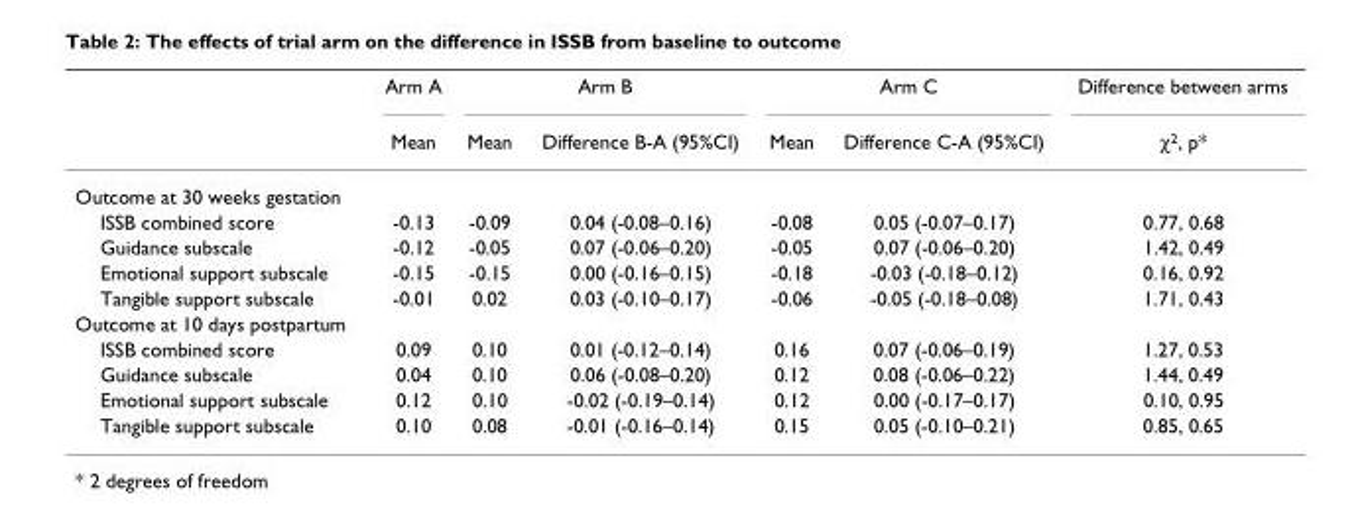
<table><thead><tr><td rowspan="2"></td><td rowspan="2">Arm A Mean</td><td colspan="2">Arm B</td><td colspan="2">Arm C</td><td rowspan="2">Difference between arms χ<sup>2</sup>, p*</td></tr><tr><td>Mean</td><td>Difference B-A (95%CI)</td><td>Mean</td><td>Difference C-A (95%CI)</td></tr></thead><tbody><tr><td colspan="7">Outcome at 30 weeks gestation</td></tr><tr><td>ISSB combined score</td><td>-0.13</td><td>-0.09</td><td>0.04 (-0.08–0.16)</td><td>-0.08</td><td>0.05 (-0.07–0.17)</td><td>0.77, 0.68</td></tr><tr><td>Guidance subscale</td><td>-0.12</td><td>-0.05</td><td>0.07 (-0.06–0.20)</td><td>-0.05</td><td>0.07 (-0.06–0.20)</td><td>1.42, 0.49</td></tr><tr><td>Emotional support subscale</td><td>-0.15</td><td>-0.15</td><td>0.00 (-0.16–0.15)</td><td>-0.18</td><td>-0.03 (-0.18–0.12)</td><td>0.16, 0.92</td></tr><tr><td>Tangible support subscale</td><td>-0.01</td><td>0.02</td><td>0.03 (-0.10–0.17)</td><td>-0.06</td><td>-0.05 (-0.18–0.08)</td><td>1.71, 0.43</td></tr><tr><td colspan="7">Outcome at 10 days postpartum</td></tr><tr><td>ISSB combined score</td><td>0.09</td><td>0.10</td><td>0.01 (-0.12–0.14)</td><td>0.16</td><td>0.07 (-0.06–0.19)</td><td>1.27, 0.53</td></tr><tr><td>Guidance subscale</td><td>0.04</td><td>0.10</td><td>0.06 (-0.08–0.20)</td><td>0.12</td><td>0.08 (-0.06–0.22)</td><td>1.44, 0.49</td></tr><tr><td>Emotional support subscale</td><td>0.12</td><td>0.10</td><td>-0.02 (-0.19–0.14)</td><td>0.12</td><td>0.00 (-0.17–0.17)</td><td>0.10, 0.95</td></tr><tr><td>Tangible support subscale</td><td>0.10</td><td>0.08</td><td>-0.01 (-0.16–0.14)</td><td>0.15</td><td>0.05 (-0.10–0.21)</td><td>0.85, 0.65</td></tr></tbody></table>